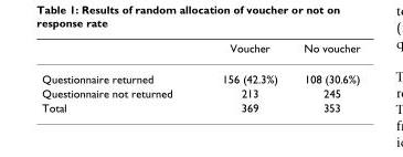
<table><thead><tr><td></td><td>Voucher</td><td>No voucher</td></tr></thead><tbody><tr><td>Questionnaire returned</td><td>156 (42.3%)</td><td>108 (30.6%)</td></tr><tr><td>Questionnaire not returned</td><td>213</td><td>245</td></tr><tr><td>Total</td><td>369</td><td>353</td></tr></tbody></table>